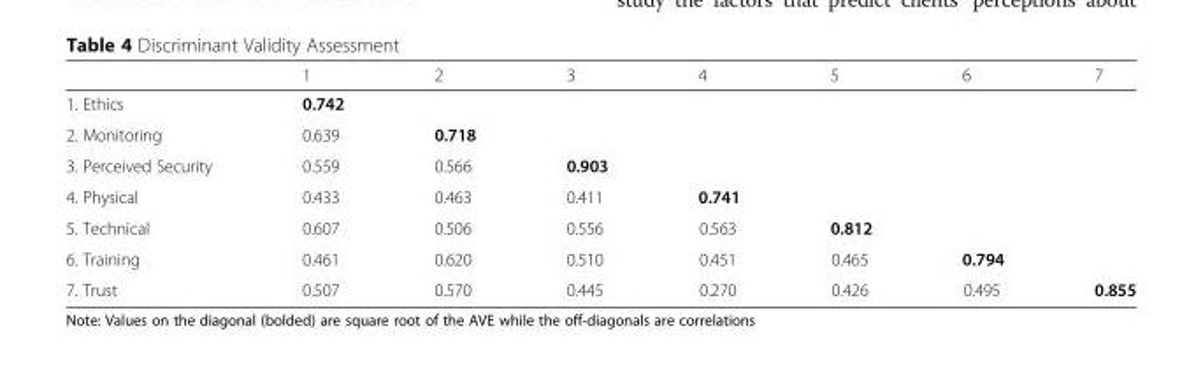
<table><thead><tr><td></td><td>1</td><td>2</td><td>3</td><td>4</td><td>5</td><td>6</td><td>7</td></tr></thead><tbody><tr><td>1. Ethics</td><td>0.742</td><td></td><td></td><td></td><td></td><td></td><td></td></tr><tr><td>2. Monitoring</td><td>0.639</td><td>0.718</td><td></td><td></td><td></td><td></td><td></td></tr><tr><td>3. Perceived Security</td><td>0.559</td><td>0.566</td><td>0.903</td><td></td><td></td><td></td><td></td></tr><tr><td>4. Physical</td><td>0.433</td><td>0.463</td><td>0.411</td><td>0.741</td><td></td><td></td><td></td></tr><tr><td>5. Technical</td><td>0.607</td><td>0.506</td><td>0.556</td><td>0.563</td><td>0.812</td><td></td><td></td></tr><tr><td>6. Training</td><td>0.461</td><td>0.620</td><td>0.510</td><td>0.451</td><td>0.465</td><td>0.794</td><td></td></tr><tr><td>7. Trust</td><td>0.507</td><td>0.570</td><td>0.445</td><td>0.270</td><td>0.426</td><td>0.495</td><td>0.855</td></tr></tbody></table>